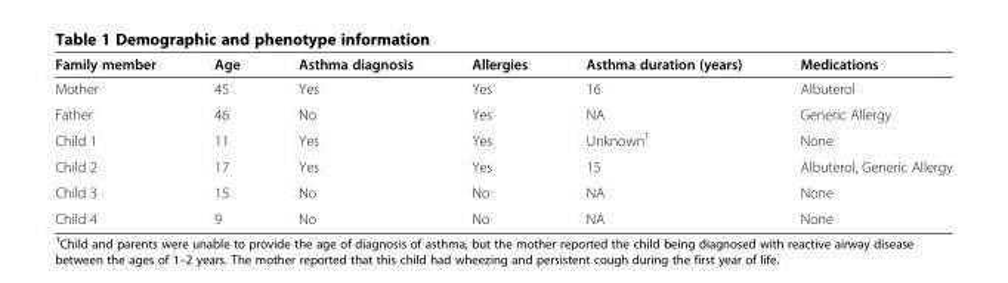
<table><thead><tr><td>Family member</td><td>Age</td><td>Asthma diagnosis</td><td>Allergies</td><td>Asthma duration (years)</td><td>Medications</td></tr></thead><tbody><tr><td>Mother</td><td>45</td><td>Yes</td><td>Yes</td><td>16</td><td>Albuterol</td></tr><tr><td>Father</td><td>46</td><td>No</td><td>Yes</td><td>NA</td><td>Generic Allergy</td></tr><tr><td>Child 1</td><td>11</td><td>Yes</td><td>Yes</td><td>Unknown<sup>1</sup></td><td>None</td></tr><tr><td>Child 2</td><td>17</td><td>Yes</td><td>Yes</td><td>15</td><td>Albuterol, Generic Allergy</td></tr><tr><td>Child 3</td><td>15</td><td>No</td><td>No</td><td>NA</td><td>None</td></tr><tr><td>Child 4</td><td>9</td><td>No</td><td>No</td><td>NA</td><td>None</td></tr></tbody></table>